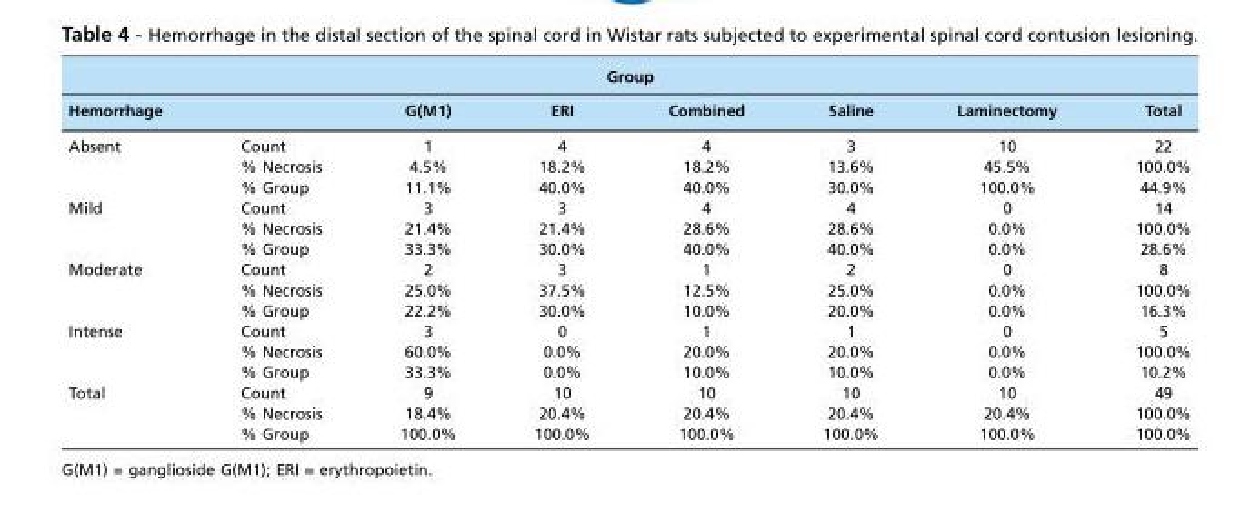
<table><thead><tr><td colspan="8">Group</td></tr><tr><td>Hemorrhage</td><td></td><td>G(M1)</td><td>ERI</td><td>Combined</td><td>Saline</td><td>Laminectomy</td><td>Total</td></tr></thead><tbody><tr><td rowspan="3">Absent</td><td>Count</td><td>1</td><td>4</td><td>4</td><td>3</td><td>10</td><td>22</td></tr><tr><td>% Necrosis</td><td>4.5%</td><td>18.2%</td><td>18.2%</td><td>13.6%</td><td>45.5%</td><td>100.0%</td></tr><tr><td>% Group</td><td>11.1%</td><td>40.0%</td><td>40.0%</td><td>30.0%</td><td>100.0%</td><td>44.9%</td></tr><tr><td rowspan="3">Mild</td><td>Count</td><td>3</td><td>3</td><td>4</td><td>4</td><td>0</td><td>14</td></tr><tr><td>% Necrosis</td><td>21.4%</td><td>21.4%</td><td>28.6%</td><td>28.6%</td><td>0.0%</td><td>100.0%</td></tr><tr><td>% Group</td><td>33.3%</td><td>30.0%</td><td>40.0%</td><td>40.0%</td><td>0.0%</td><td>28.6%</td></tr><tr><td rowspan="3">Moderate</td><td>Count</td><td>2</td><td>3</td><td>1</td><td>2</td><td>0</td><td>8</td></tr><tr><td>% Necrosis</td><td>25.0%</td><td>37.5%</td><td>12.5%</td><td>25.0%</td><td>0.0%</td><td>100.0%</td></tr><tr><td>% Group</td><td>22.2%</td><td>30.0%</td><td>10.0%</td><td>20.0%</td><td>0.0%</td><td>16.3%</td></tr><tr><td rowspan="3">Intense</td><td>Count</td><td>3</td><td>0</td><td>1</td><td>1</td><td>0</td><td>5</td></tr><tr><td>% Necrosis</td><td>60.0%</td><td>0.0%</td><td>20.0%</td><td>20.0%</td><td>0.0%</td><td>100.0%</td></tr><tr><td>% Group</td><td>33.3%</td><td>0.0%</td><td>10.0%</td><td>10.0%</td><td>0.0%</td><td>10.2%</td></tr><tr><td rowspan="3">Total</td><td>Count</td><td>9</td><td>10</td><td>10</td><td>10</td><td>10</td><td>49</td></tr><tr><td>% Necrosis</td><td>18.4%</td><td>20.4%</td><td>20.4%</td><td>20.4%</td><td>20.4%</td><td>100.0%</td></tr><tr><td>% Group</td><td>100.0%</td><td>100.0%</td><td>100.0%</td><td>100.0%</td><td>100.0%</td><td>100.0%</td></tr></tbody></table>